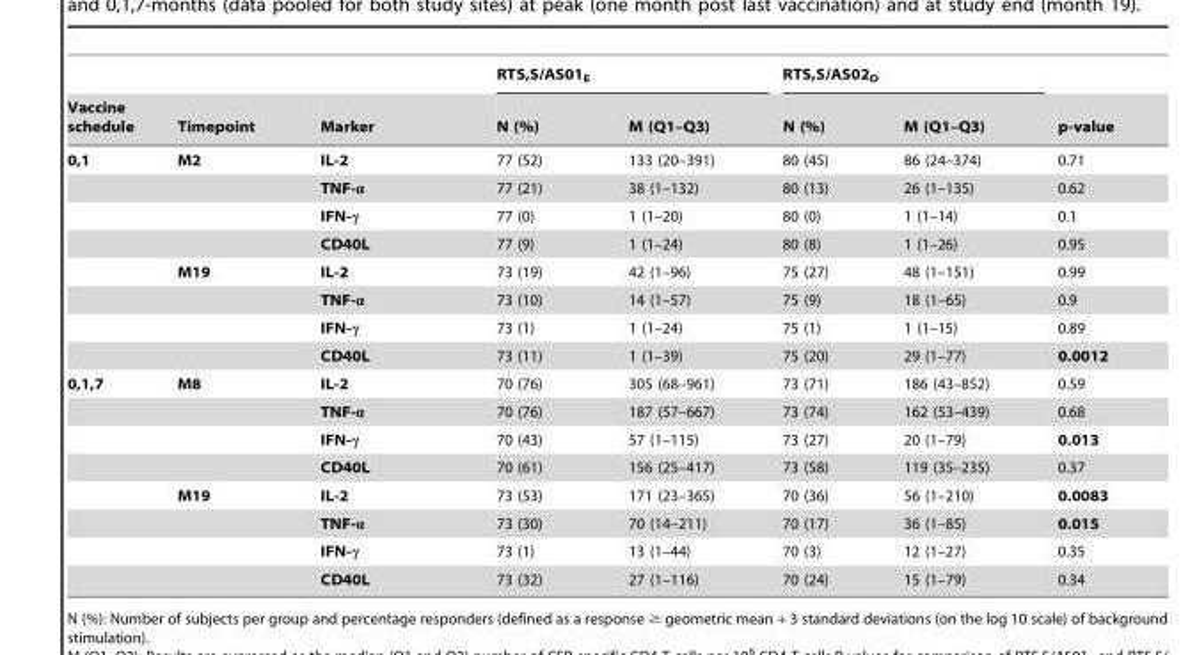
<table><thead><tr><td rowspan="2">Vaccine schedule</td><td rowspan="2">Timepoint</td><td rowspan="2">Marker</td><td colspan="2">RTS,S/AS01<sub>E</sub></td><td colspan="2">RTS,S/AS02<sub>D</sub></td><td rowspan="2">p-value</td></tr><tr><td>N (%)</td><td>M (Q1–Q3)</td><td>N (%)</td><td>M (Q1–Q3)</td></tr></thead><tbody><tr><td rowspan="8">0,1</td><td>M2</td><td>IL-2</td><td>77 (52)</td><td>133 (20–391)</td><td>80 (45)</td><td>86 (24–374)</td><td>0.71</td></tr><tr><td></td><td>TNF-α</td><td>77 (21)</td><td>38 (1–132)</td><td>80 (13)</td><td>26 (1–135)</td><td>0.62</td></tr><tr><td></td><td>IFN-γ</td><td>77 (0)</td><td>1 (1–20)</td><td>80 (0)</td><td>1 (1–14)</td><td>0.1</td></tr><tr><td></td><td>CD40L</td><td>77 (9)</td><td>1 (1–24)</td><td>80 (8)</td><td>1 (1–26)</td><td>0.95</td></tr><tr><td>M19</td><td>IL-2</td><td>73 (19)</td><td>42 (1–96)</td><td>75 (27)</td><td>48 (1–151)</td><td>0.99</td></tr><tr><td></td><td>TNF-α</td><td>73 (10)</td><td>14 (1–57)</td><td>75 (9)</td><td>18 (1–65)</td><td>0.9</td></tr><tr><td></td><td>IFN-γ</td><td>73 (1)</td><td>1 (1–24)</td><td>75 (1)</td><td>1 (1–15)</td><td>0.89</td></tr><tr><td></td><td>CD40L</td><td>73 (11)</td><td>1 (1–39)</td><td>75 (20)</td><td>29 (1–77)</td><td>0.0012</td></tr><tr><td rowspan="8">0,1,7</td><td>M8</td><td>IL-2</td><td>70 (76)</td><td>305 (68–961)</td><td>73 (71)</td><td>186 (43–852)</td><td>0.59</td></tr><tr><td></td><td>TNF-α</td><td>70 (76)</td><td>187 (57–667)</td><td>73 (74)</td><td>162 (53–439)</td><td>0.68</td></tr><tr><td></td><td>IFN-γ</td><td>70 (43)</td><td>57 (1–115)</td><td>73 (27)</td><td>20 (1–79)</td><td>0.013</td></tr><tr><td></td><td>CD40L</td><td>70 (61)</td><td>156 (25–417)</td><td>73 (58)</td><td>119 (35–235)</td><td>0.37</td></tr><tr><td>M19</td><td>IL-2</td><td>73 (53)</td><td>171 (23–365)</td><td>70 (36)</td><td>56 (1–210)</td><td>0.0083</td></tr><tr><td></td><td>TNF-α</td><td>73 (30)</td><td>70 (14–211)</td><td>70 (17)</td><td>36 (1–85)</td><td>0.015</td></tr><tr><td></td><td>IFN-γ</td><td>73 (1)</td><td>13 (1–44)</td><td>70 (3)</td><td>12 (1–27)</td><td>0.35</td></tr><tr><td></td><td>CD40L</td><td>73 (32)</td><td>27 (1–116)</td><td>70 (24)</td><td>15 (1–79)</td><td>0.34</td></tr></tbody></table>